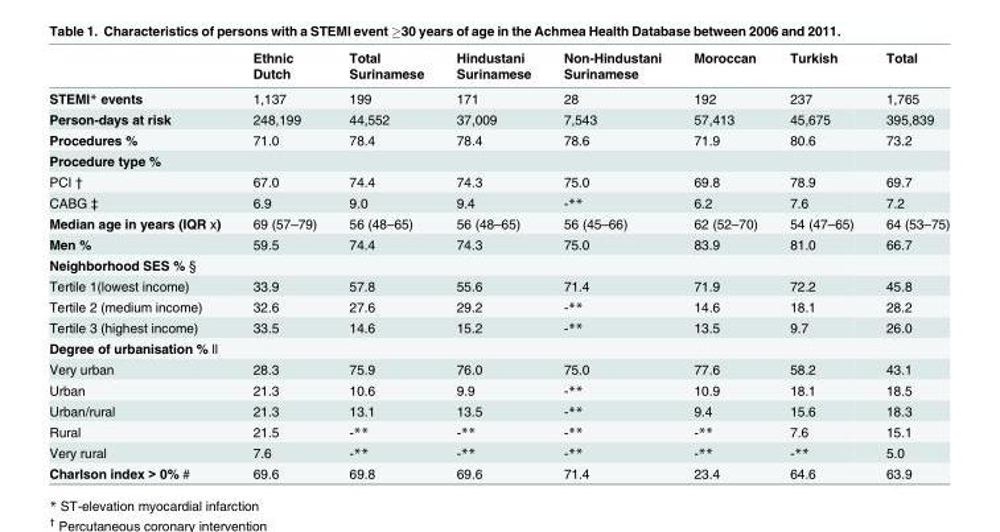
<table><thead><tr><td></td><td>Ethnic Dutch</td><td>Total Surinamese</td><td>Hindustani Surinamese</td><td>Non-Hindustani Surinamese</td><td>Moroccan</td><td>Turkish</td><td>Total</td></tr></thead><tbody><tr><td>STEMI* events</td><td>1,137</td><td>199</td><td>171</td><td>28</td><td>192</td><td>237</td><td>1,765</td></tr><tr><td>Person-days at risk</td><td>248,199</td><td>44,552</td><td>37,009</td><td>7,543</td><td>57,413</td><td>45,675</td><td>395,839</td></tr><tr><td>Procedures %</td><td>71.0</td><td>78.4</td><td>78.4</td><td>78.6</td><td>71.9</td><td>80.6</td><td>73.2</td></tr><tr><td colspan="8">Procedure type %</td></tr><tr><td>PCI †</td><td>67.0</td><td>74.4</td><td>74.3</td><td>75.0</td><td>69.8</td><td>78.9</td><td>69.7</td></tr><tr><td>CABG ‡</td><td>6.9</td><td>9.0</td><td>9.4</td><td>-**</td><td>6.2</td><td>7.6</td><td>7.2</td></tr><tr><td>Median age in years (IQR x)</td><td>69 (57–79)</td><td>56 (48–65)</td><td>56 (48–65)</td><td>56 (45–66)</td><td>62 (52–70)</td><td>54 (47–65)</td><td>64 (53–75)</td></tr><tr><td>Men %</td><td>59.5</td><td>74.4</td><td>74.3</td><td>75.0</td><td>83.9</td><td>81.0</td><td>66.7</td></tr><tr><td colspan="8">Neighborhood SES % §</td></tr><tr><td>Tertile 1(lowest income)</td><td>33.9</td><td>57.8</td><td>55.6</td><td>71.4</td><td>71.9</td><td>72.2</td><td>45.8</td></tr><tr><td>Tertile 2 (medium income)</td><td>32.6</td><td>27.6</td><td>29.2</td><td>-**</td><td>14.6</td><td>18.1</td><td>28.2</td></tr><tr><td>Tertile 3 (highest income)</td><td>33.5</td><td>14.6</td><td>15.2</td><td>-**</td><td>13.5</td><td>9.7</td><td>26.0</td></tr><tr><td colspan="8">Degree of urbanisation % ll</td></tr><tr><td>Very urban</td><td>28.3</td><td>75.9</td><td>76.0</td><td>75.0</td><td>77.6</td><td>58.2</td><td>43.1</td></tr><tr><td>Urban</td><td>21.3</td><td>10.6</td><td>9.9</td><td>-**</td><td>10.9</td><td>18.1</td><td>18.5</td></tr><tr><td>Urban/rural</td><td>21.3</td><td>13.1</td><td>13.5</td><td>-**</td><td>9.4</td><td>15.6</td><td>18.3</td></tr><tr><td>Rural</td><td>21.5</td><td>-**</td><td>-**</td><td>-**</td><td>-**</td><td>7.6</td><td>15.1</td></tr><tr><td>Very rural</td><td>7.6</td><td>-**</td><td>-**</td><td>-**</td><td>-**</td><td>-**</td><td>5.0</td></tr><tr><td>Charlson index &gt; 0% #</td><td>69.6</td><td>69.8</td><td>69.6</td><td>71.4</td><td>23.4</td><td>64.6</td><td>63.9</td></tr></tbody></table>